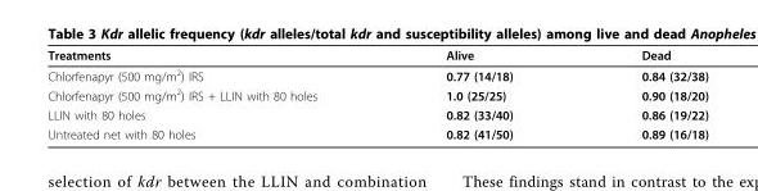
<table><thead><tr><td>Treatments</td><td>Alive</td><td>Dead</td></tr></thead><tbody><tr><td>Chlorfenapyr (500 mg/m<sup>2</sup>) IRS</td><td>0.77 (14/18)</td><td>0.84 (32/38)</td></tr><tr><td>Chlorfenapyr (500 mg/m<sup>2</sup>) IRS + LLIN with 80 holes</td><td>1.0 (25/25)</td><td>0.90 (18/20)</td></tr><tr><td>LLIN with 80 holes</td><td>0.82 (33/40)</td><td>0.86 (19/22)</td></tr><tr><td>Untreated net with 80 holes</td><td>0.82 (41/50)</td><td>0.89 (16/18)</td></tr></tbody></table>